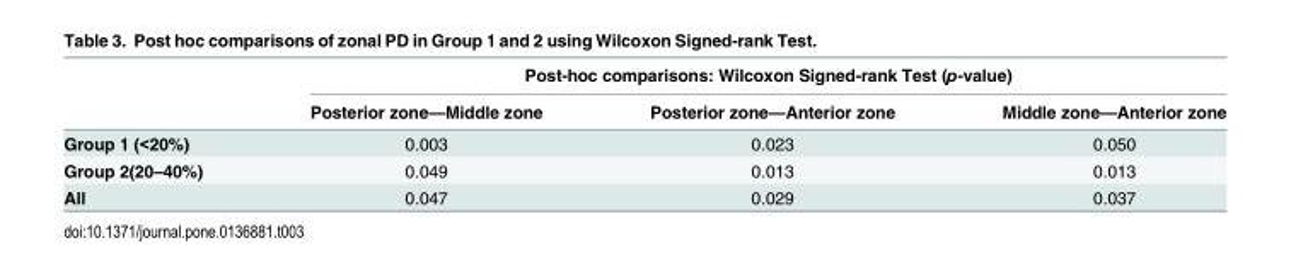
<table><thead><tr><td rowspan="2"></td><td colspan="3">Post-hoc comparisons: Wilcoxon Signed-rank Test (p-value)</td></tr><tr><td>Posterior zone—Middle zone</td><td>Posterior zone—Anterior zone</td><td>Middle zone—Anterior zone</td></tr></thead><tbody><tr><td>Group 1 (&lt;20%)</td><td>0.003</td><td>0.023</td><td>0.050</td></tr><tr><td>Group 2(20–40%)</td><td>0.049</td><td>0.013</td><td>0.013</td></tr><tr><td>All</td><td>0.047</td><td>0.029</td><td>0.037</td></tr></tbody></table>